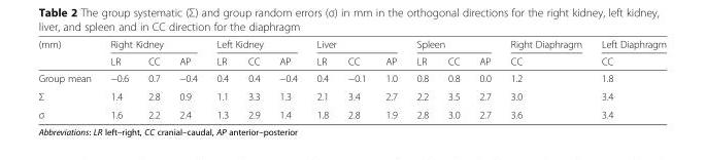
<table><thead><tr><td rowspan="2">(mm)</td><td colspan="3">Right Kidney</td><td colspan="3">Left Kidney</td><td colspan="3">Liver</td><td colspan="3">Spleen</td><td rowspan="2">Right Diaphragm CC</td><td rowspan="2">Left Diaphragm CC</td></tr><tr><td>LR</td><td>CC</td><td>AP</td><td>LR</td><td>CC</td><td>AP</td><td>LR</td><td>CC</td><td>AP</td><td>LR</td><td>CC</td><td>AP</td></tr></thead><tbody><tr><td>Group mean</td><td>−0.6</td><td>0.7</td><td>−0.4</td><td>0.4</td><td>0.4</td><td>−0.4</td><td>0.4</td><td>−0.1</td><td>1.0</td><td>0.8</td><td>0.8</td><td>0.0</td><td>1.2</td><td>1.8</td></tr><tr><td>Σ</td><td>1.4</td><td>2.8</td><td>0.9</td><td>1.1</td><td>3.3</td><td>1.3</td><td>2.1</td><td>3.4</td><td>2.7</td><td>2.2</td><td>3.5</td><td>2.7</td><td>3.0</td><td>3.4</td></tr><tr><td>σ</td><td>1.6</td><td>2.2</td><td>2.4</td><td>1.3</td><td>2.9</td><td>1.4</td><td>1.8</td><td>2.8</td><td>1.9</td><td>2.8</td><td>3.0</td><td>2.7</td><td>3.6</td><td>3.4</td></tr></tbody></table>